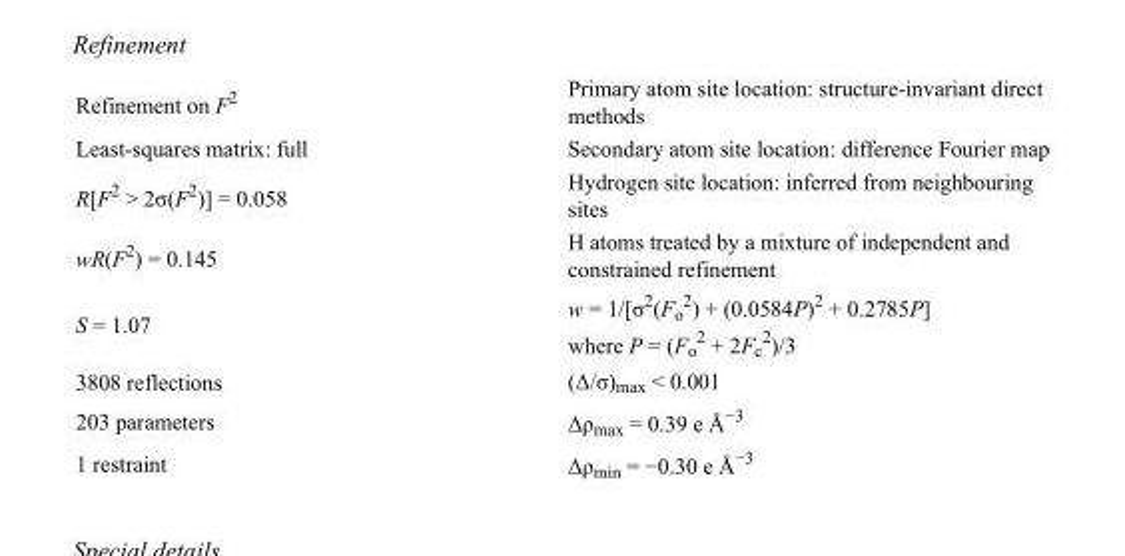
<table><tbody><tr><td>Refinement on F<sup>2</sup></td><td>Primary atom site location: structure-invariant direct methods</td></tr><tr><td>Least-squares matrix: full</td><td>Secondary atom site location: difference Fourier map</td></tr><tr><td>R[F<sup>2</sup> &gt; 2σ(F<sup>2</sup>)] = 0.058</td><td>Hydrogen site location: inferred from neighbouring sites</td></tr><tr><td>wR(F<sup>2</sup>) = 0.145</td><td>H atoms treated by a mixture of independent and constrained refinement</td></tr><tr><td>S = 1.07</td><td>w = 1/[σ<sup>2</sup>(F<sub>o</sub> <sup>2</sup>) + (0.0584P)<sup>2</sup> + 0.2785P] where P = (F<sub>o</sub> <sup>2</sup> + 2F<sub>c</sub> <sup>2</sup>)/3</td></tr><tr><td>3808 reflections</td><td>(Δ/σ)<sub>max</sub> &lt; 0.001</td></tr><tr><td>203 parameters</td><td>Δρ<sub>max</sub> = 0.39 e Å<sup>−3</sup></td></tr><tr><td>1 restraint</td><td>Δρ<sub>min</sub> = −0.30 e Å<sup>−3</sup></td></tr></tbody></table>